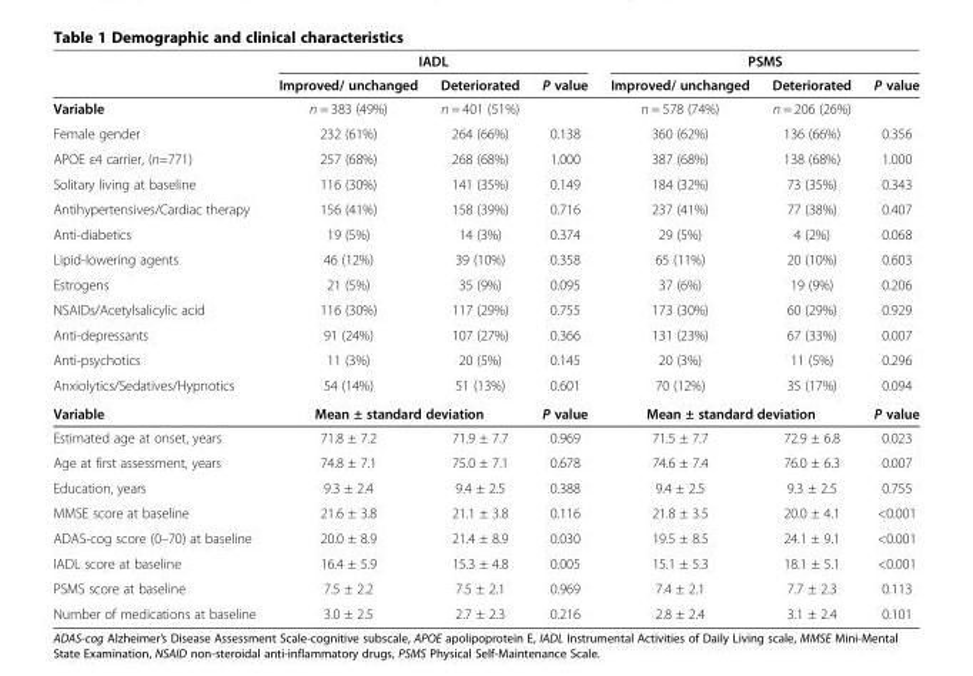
<table><thead><tr><td rowspan="2"></td><td colspan="3">IADL</td><td colspan="3">PSMS</td></tr><tr><td>Improved/ unchanged</td><td>Deteriorated</td><td>P value</td><td>Improved/ unchanged</td><td>Deteriorated</td><td>P value</td></tr></thead><tbody><tr><td>Variable</td><td>n = 383 (49%)</td><td>n = 401 (51%)</td><td></td><td>n = 578 (74%)</td><td>n = 206 (26%)</td><td></td></tr><tr><td>Female gender</td><td>232 (61%)</td><td>264 (66%)</td><td>0.138</td><td>360 (62%)</td><td>136 (66%)</td><td>0.356</td></tr><tr><td>APOE ε4 carrier, (n=771)</td><td>257 (68%)</td><td>268 (68%)</td><td>1.000</td><td>387 (68%)</td><td>138 (68%)</td><td>1.000</td></tr><tr><td>Solitary living at baseline</td><td>116 (30%)</td><td>141 (35%)</td><td>0.149</td><td>184 (32%)</td><td>73 (35%)</td><td>0.343</td></tr><tr><td>Antihypertensives/Cardiac therapy</td><td>156 (41%)</td><td>158 (39%)</td><td>0.716</td><td>237 (41%)</td><td>77 (38%)</td><td>0.407</td></tr><tr><td>Anti-diabetics</td><td>19 (5%)</td><td>14 (3%)</td><td>0.374</td><td>29 (5%)</td><td>4 (2%)</td><td>0.068</td></tr><tr><td>Lipid-lowering agents</td><td>46 (12%)</td><td>39 (10%)</td><td>0.358</td><td>65 (11%)</td><td>20 (10%)</td><td>0.603</td></tr><tr><td>Estrogens</td><td>21 (5%)</td><td>35 (9%)</td><td>0.095</td><td>37 (6%)</td><td>19 (9%)</td><td>0.206</td></tr><tr><td>NSAIDs/Acetylsalicylic acid</td><td>116 (30%)</td><td>117 (29%)</td><td>0.755</td><td>173 (30%)</td><td>60 (29%)</td><td>0.929</td></tr><tr><td>Anti-depressants</td><td>91 (24%)</td><td>107 (27%)</td><td>0.366</td><td>131 (23%)</td><td>67 (33%)</td><td>0.007</td></tr><tr><td>Anti-psychotics</td><td>11 (3%)</td><td>20 (5%)</td><td>0.145</td><td>20 (3%)</td><td>11 (5%)</td><td>0.296</td></tr><tr><td>Anxiolytics/Sedatives/Hypnotics</td><td>54 (14%)</td><td>51 (13%)</td><td>0.601</td><td>70 (12%)</td><td>35 (17%)</td><td>0.094</td></tr><tr><td>Variable</td><td colspan="2">Mean ± standard deviation</td><td>P value</td><td colspan="2">Mean ± standard deviation</td><td>P value</td></tr><tr><td>Estimated age at onset, years</td><td>71.8 ± 7.2</td><td>71.9 ± 7.7</td><td>0.969</td><td>71.5 ± 7.7</td><td>72.9 ± 6.8</td><td>0.023</td></tr><tr><td>Age at first assessment, years</td><td>74.8 ± 7.1</td><td>75.0 ± 7.1</td><td>0.678</td><td>74.6 ± 7.4</td><td>76.0 ± 6.3</td><td>0.007</td></tr><tr><td>Education, years</td><td>9.3 ± 2.4</td><td>9.4 ± 2.5</td><td>0.388</td><td>9.4 ± 2.5</td><td>9.3 ± 2.5</td><td>0.755</td></tr><tr><td>MMSE score at baseline</td><td>21.6 ± 3.8</td><td>21.1 ± 3.8</td><td>0.116</td><td>21.8 ± 3.5</td><td>20.0 ± 4.1</td><td>&lt;0.001</td></tr><tr><td>ADAS-cog score (0–70) at baseline</td><td>20.0 ± 8.9</td><td>21.4 ± 8.9</td><td>0.030</td><td>19.5 ± 8.5</td><td>24.1 ± 9.1</td><td>&lt;0.001</td></tr><tr><td>IADL score at baseline</td><td>16.4 ± 5.9</td><td>15.3 ± 4.8</td><td>0.005</td><td>15.1 ± 5.3</td><td>18.1 ± 5.1</td><td>&lt;0.001</td></tr><tr><td>PSMS score at baseline</td><td>7.5 ± 2.2</td><td>7.5 ± 2.1</td><td>0.969</td><td>7.4 ± 2.1</td><td>7.7 ± 2.3</td><td>0.113</td></tr><tr><td>Number of medications at baseline</td><td>3.0 ± 2.5</td><td>2.7 ± 2.3</td><td>0.216</td><td>2.8 ± 2.4</td><td>3.1 ± 2.4</td><td>0.101</td></tr></tbody></table>